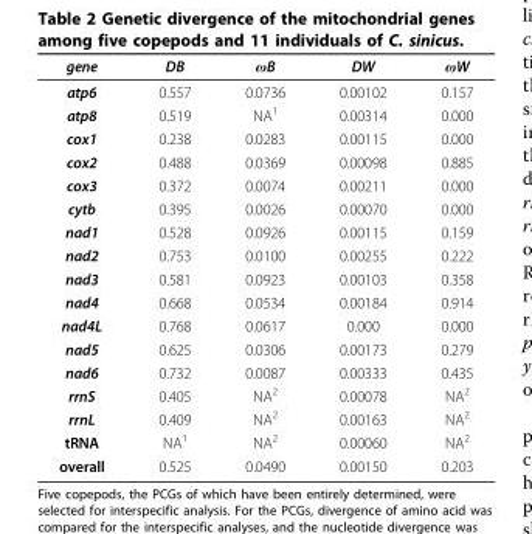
<table><thead><tr><td>gene</td><td>DB</td><td>ωB</td><td>DW</td><td>ωW</td></tr></thead><tbody><tr><td>atp6</td><td>0.557</td><td>0.0736</td><td>0.00102</td><td>0.157</td></tr><tr><td>atp8</td><td>0.519</td><td>NA<sup>1</sup></td><td>0.00314</td><td>0.000</td></tr><tr><td>cox1</td><td>0.238</td><td>0.0283</td><td>0.00115</td><td>0.000</td></tr><tr><td>cox2</td><td>0.488</td><td>0.0369</td><td>0.00098</td><td>0.885</td></tr><tr><td>cox3</td><td>0.372</td><td>0.0074</td><td>0.00211</td><td>0.000</td></tr><tr><td>cytb</td><td>0.395</td><td>0.0026</td><td>0.00070</td><td>0.000</td></tr><tr><td>nad1</td><td>0.528</td><td>0.0926</td><td>0.00115</td><td>0.159</td></tr><tr><td>nad2</td><td>0.753</td><td>0.0100</td><td>0.00255</td><td>0.222</td></tr><tr><td>nad3</td><td>0.581</td><td>0.0923</td><td>0.00103</td><td>0.358</td></tr><tr><td>nad4</td><td>0.668</td><td>0.0534</td><td>0.00184</td><td>0.914</td></tr><tr><td>nad4L</td><td>0.768</td><td>0.0617</td><td>0.000</td><td>0.000</td></tr><tr><td>nad5</td><td>0.625</td><td>0.0306</td><td>0.00173</td><td>0.279</td></tr><tr><td>nad6</td><td>0.732</td><td>0.0087</td><td>0.00333</td><td>0.435</td></tr><tr><td>rrnS</td><td>0.405</td><td>NA<sup>2</sup></td><td>0.00078</td><td>NA<sup>2</sup></td></tr><tr><td>rrnL</td><td>0.409</td><td>NA<sup>2</sup></td><td>0.00163</td><td>NA<sup>2</sup></td></tr><tr><td>tRNA</td><td>NA<sup>1</sup></td><td>NA<sup>2</sup></td><td>0.00060</td><td>NA<sup>2</sup></td></tr><tr><td>overall</td><td>0.525</td><td>0.0490</td><td>0.00150</td><td>0.203</td></tr></tbody></table>